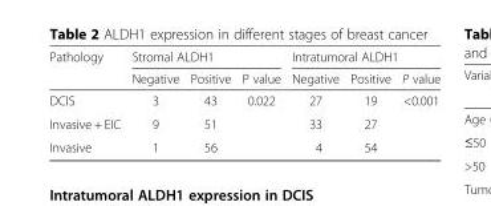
<table><thead><tr><td rowspan="2">Pathology</td><td colspan="3">Stromal ALDH1</td><td colspan="3">Intratumoral ALDH1</td></tr><tr><td>Negative</td><td>Positive</td><td>P value</td><td>Negative</td><td>Positive</td><td>P value</td></tr></thead><tbody><tr><td>DCIS</td><td>3</td><td>43</td><td>0.022</td><td>27</td><td>19</td><td>&lt;0.001</td></tr><tr><td>Invasive + EIC</td><td>9</td><td>51</td><td></td><td>33</td><td>27</td><td></td></tr><tr><td>Invasive</td><td>1</td><td>56</td><td></td><td>4</td><td>54</td><td></td></tr></tbody></table>